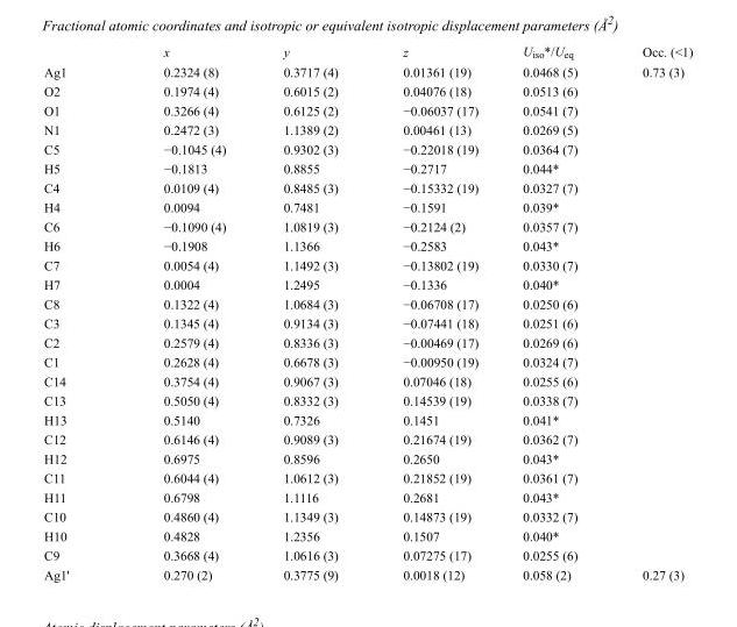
<table><thead><tr><td></td><td>x</td><td>y</td><td>z</td><td>U<sub>iso</sub>*/U<sub>eq</sub></td><td>Occ. (&lt;1)</td></tr></thead><tbody><tr><td>Ag1</td><td>0.2324 (8)</td><td>0.3717 (4)</td><td>0.01361 (19)</td><td>0.0468 (5)</td><td>0.73 (3)</td></tr><tr><td>O2</td><td>0.1974 (4)</td><td>0.6015 (2)</td><td>0.04076 (18)</td><td>0.0513 (6)</td><td></td></tr><tr><td>O1</td><td>0.3266 (4)</td><td>0.6125 (2)</td><td>−0.06037 (17)</td><td>0.0541 (7)</td><td></td></tr><tr><td>N1</td><td>0.2472 (3)</td><td>1.1389 (2)</td><td>0.00461 (13)</td><td>0.0269 (5)</td><td></td></tr><tr><td>C5</td><td>−0.1045 (4)</td><td>0.9302 (3)</td><td>−0.22018 (19)</td><td>0.0364 (7)</td><td></td></tr><tr><td>H5</td><td>−0.1813</td><td>0.8855</td><td>−0.2717</td><td>0.044*</td><td></td></tr><tr><td>C4</td><td>0.0109 (4)</td><td>0.8485 (3)</td><td>−0.15332 (19)</td><td>0.0327 (7)</td><td></td></tr><tr><td>H4</td><td>0.0094</td><td>0.7481</td><td>−0.1591</td><td>0.039*</td><td></td></tr><tr><td>C6</td><td>−0.1090 (4)</td><td>1.0819 (3)</td><td>−0.2124 (2)</td><td>0.0357 (7)</td><td></td></tr><tr><td>H6</td><td>−0.1908</td><td>1.1366</td><td>−0.2583</td><td>0.043*</td><td></td></tr><tr><td>C7</td><td>0.0054 (4)</td><td>1.1492 (3)</td><td>−0.13802 (19)</td><td>0.0330 (7)</td><td></td></tr><tr><td>H7</td><td>0.0004</td><td>1.2495</td><td>−0.1336</td><td>0.040*</td><td></td></tr><tr><td>C8</td><td>0.1322 (4)</td><td>1.0684 (3)</td><td>−0.06708 (17)</td><td>0.0250 (6)</td><td></td></tr><tr><td>C3</td><td>0.1345 (4)</td><td>0.9134 (3)</td><td>−0.07441 (18)</td><td>0.0251 (6)</td><td></td></tr><tr><td>C2</td><td>0.2579 (4)</td><td>0.8336 (3)</td><td>−0.00469 (17)</td><td>0.0269 (6)</td><td></td></tr><tr><td>C1</td><td>0.2628 (4)</td><td>0.6678 (3)</td><td>−0.00950 (19)</td><td>0.0324 (7)</td><td></td></tr><tr><td>C14</td><td>0.3754 (4)</td><td>0.9067 (3)</td><td>0.07046 (18)</td><td>0.0255 (6)</td><td></td></tr><tr><td>C13</td><td>0.5050 (4)</td><td>0.8332 (3)</td><td>0.14539 (19)</td><td>0.0338 (7)</td><td></td></tr><tr><td>H13</td><td>0.5140</td><td>0.7326</td><td>0.1451</td><td>0.041*</td><td></td></tr><tr><td>C12</td><td>0.6146 (4)</td><td>0.9089 (3)</td><td>0.21674 (19)</td><td>0.0362 (7)</td><td></td></tr><tr><td>H12</td><td>0.6975</td><td>0.8596</td><td>0.2650</td><td>0.043*</td><td></td></tr><tr><td>C11</td><td>0.6044 (4)</td><td>1.0612 (3)</td><td>0.21852 (19)</td><td>0.0361 (7)</td><td></td></tr><tr><td>H11</td><td>0.6798</td><td>1.1116</td><td>0.2681</td><td>0.043*</td><td></td></tr><tr><td>C10</td><td>0.4860 (4)</td><td>1.1349 (3)</td><td>0.14873 (19)</td><td>0.0332 (7)</td><td></td></tr><tr><td>H10</td><td>0.4828</td><td>1.2356</td><td>0.1507</td><td>0.040*</td><td></td></tr><tr><td>C9</td><td>0.3668 (4)</td><td>1.0616 (3)</td><td>0.07275 (17)</td><td>0.0255 (6)</td><td></td></tr><tr><td>Ag1&#x27;</td><td>0.270 (2)</td><td>0.3775 (9)</td><td>0.0018 (12)</td><td>0.058 (2)</td><td>0.27 (3)</td></tr></tbody></table>